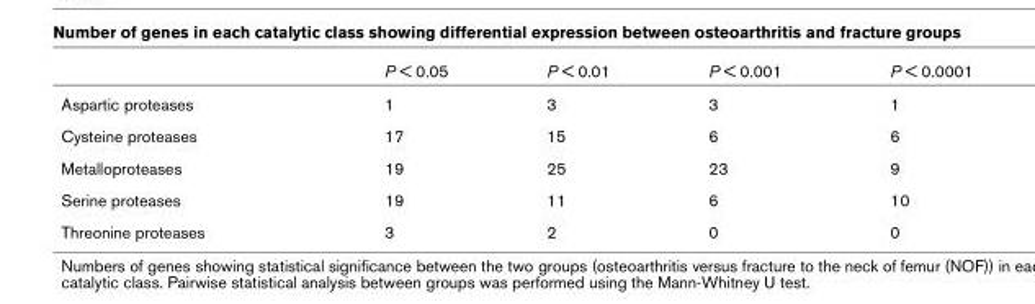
<table><thead><tr><td></td><td>P &lt; 0.05</td><td>P &lt; 0.01</td><td>P &lt; 0.001</td><td>P &lt; 0.0001</td></tr></thead><tbody><tr><td>Aspartic proteases</td><td>1</td><td>3</td><td>3</td><td>1</td></tr><tr><td>Cysteine proteases</td><td>17</td><td>15</td><td>6</td><td>6</td></tr><tr><td>Metalloproteases</td><td>19</td><td>25</td><td>23</td><td>9</td></tr><tr><td>Serine proteases</td><td>19</td><td>11</td><td>6</td><td>10</td></tr><tr><td>Threonine proteases</td><td>3</td><td>2</td><td>0</td><td>0</td></tr></tbody></table>